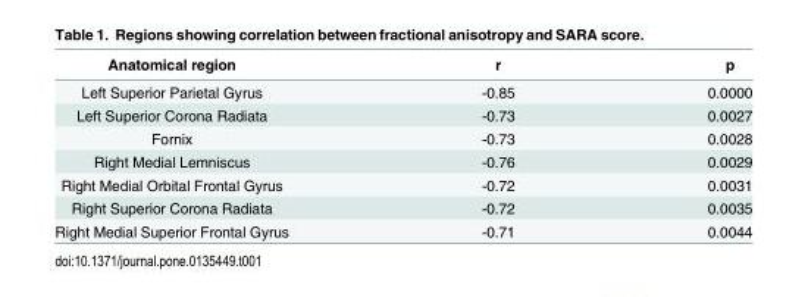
<table><thead><tr><td>Anatomical region</td><td>r</td><td>p</td></tr></thead><tbody><tr><td>Left Superior Parietal Gyrus</td><td>-0.85</td><td>0.0000</td></tr><tr><td>Left Superior Corona Radiata</td><td>-0.73</td><td>0.0027</td></tr><tr><td>Fornix</td><td>-0.73</td><td>0.0028</td></tr><tr><td>Right Medial Lemniscus</td><td>-0.76</td><td>0.0029</td></tr><tr><td>Right Medial Orbital Frontal Gyrus</td><td>-0.72</td><td>0.0031</td></tr><tr><td>Right Superior Corona Radiata</td><td>-0.72</td><td>0.0035</td></tr><tr><td>Right Medial Superior Frontal Gyrus</td><td>-0.71</td><td>0.0044</td></tr></tbody></table>